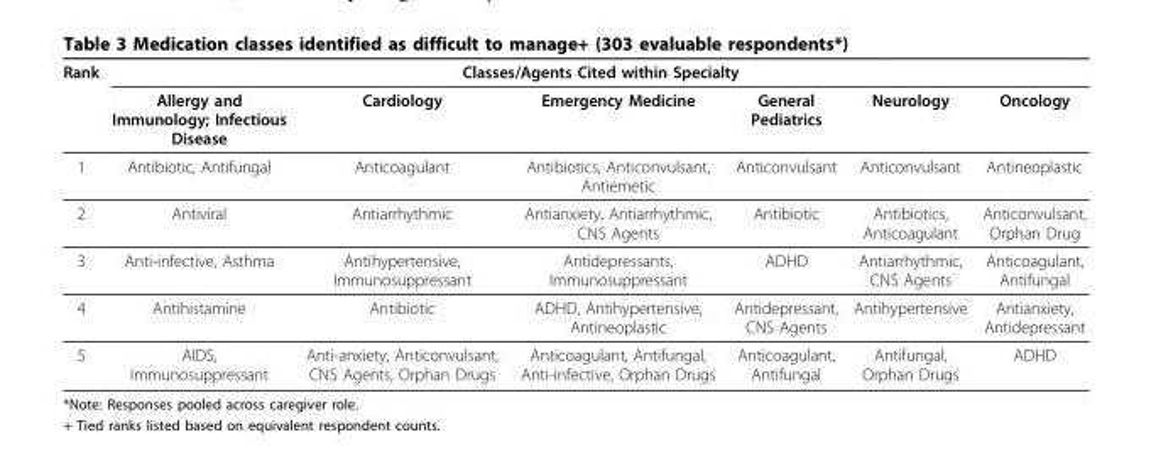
<table><thead><tr><td rowspan="2">Rank</td><td colspan="6">Classes/Agents Cited within Specialty</td></tr><tr><td>Allergy and Immunology; Infectious Disease</td><td>Cardiology</td><td>Emergency Medicine</td><td>General Pediatrics</td><td>Neurology</td><td>Oncology</td></tr></thead><tbody><tr><td>1</td><td>Antibiotic, Antifungal</td><td>Anticoagulant</td><td>Antibiotics, Anticonvulsant, Antiemetic</td><td>Anticonvulsant</td><td>Anticonvulsant</td><td>Antineoplastic</td></tr><tr><td>2</td><td>Antiviral</td><td>Antiarrhythmic</td><td>Antianxiety, Antiarrhythmic, CNS Agents</td><td>Antibiotic</td><td>Antibiotics, Anticoagulant</td><td>Anticonvulsant, Orphan Drug</td></tr><tr><td>3</td><td>Anti-infective, Asthma</td><td>Antihypertensive, Immunosuppressant</td><td>Antidepressants, Immunosuppressant</td><td>ADHD</td><td>Antiarrhythmic, CNS Agents</td><td>Anticoagulant, Antifungal</td></tr><tr><td>4</td><td>Antihistamine</td><td>Antibiotic</td><td>ADHD, Antihypertensive, Antineoplastic</td><td>Antidepressant, CNS Agents</td><td>Antihypertensive</td><td>Antianxiety, Antidepressant</td></tr><tr><td>5</td><td>AIDS, Immunosuppressant</td><td>Anti-anxiety, Anticonvulsant, CNS Agents, Orphan Drugs</td><td>Anticoagulant, Antifungal, Anti-infective, Orphan Drugs</td><td>Anticoagulant, Antifungal</td><td>Antifungal, Orphan Drugs</td><td>ADHD</td></tr></tbody></table>